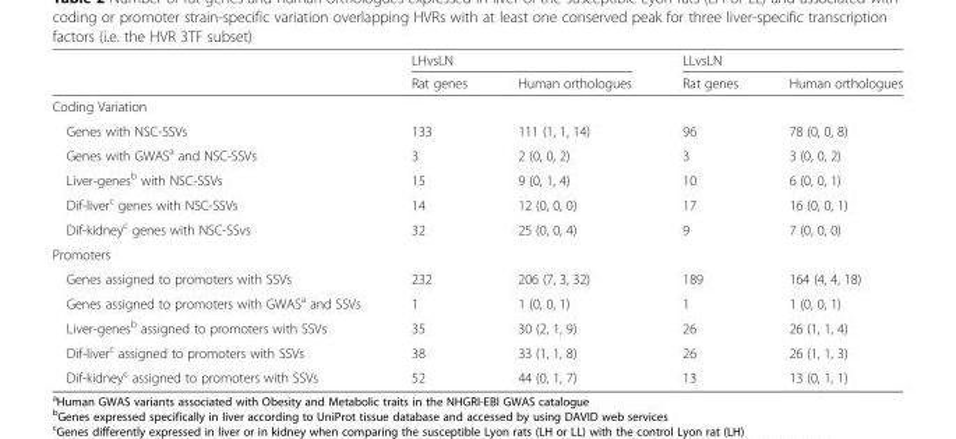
<table><thead><tr><td rowspan="2"></td><td colspan="2">LHvsLN</td><td colspan="2">LLvsLN</td></tr><tr><td>Rat genes</td><td>Human orthologues</td><td>Rat genes</td><td>Human orthologues</td></tr></thead><tbody><tr><td colspan="5">Coding Variation</td></tr><tr><td>Genes with NSC-SSVs</td><td>133</td><td>111 (1, 1, 14)</td><td>96</td><td>78 (0, 0, 8)</td></tr><tr><td>Genes with GWAS<sup>a</sup> and NSC-SSVs</td><td>3</td><td>2 (0, 0, 2)</td><td>3</td><td>3 (0, 0, 2)</td></tr><tr><td>Liver-genes<sup>b</sup> with NSC-SSVs</td><td>15</td><td>9 (0, 1, 4)</td><td>10</td><td>6 (0, 0, 1)</td></tr><tr><td>Dif-liver<sup>c</sup> genes with NSC-SSVs</td><td>14</td><td>12 (0, 0, 0)</td><td>17</td><td>16 (0, 0, 1)</td></tr><tr><td>Dif-kidney<sup>c</sup> genes with NSC-SSvs</td><td>32</td><td>25 (0, 0, 4)</td><td>9</td><td>7 (0, 0, 0)</td></tr><tr><td colspan="5">Promoters</td></tr><tr><td>Genes assigned to promoters with SSVs</td><td>232</td><td>206 (7, 3, 32)</td><td>189</td><td>164 (4, 4, 18)</td></tr><tr><td>Genes assigned to promoters with GWAS<sup>a</sup> and SSVs</td><td>1</td><td>1 (0, 0, 1)</td><td>1</td><td>1 (0, 0, 1)</td></tr><tr><td>Liver-genes<sup>b</sup> assigned to promoters with SSVs</td><td>35</td><td>30 (2, 1, 9)</td><td>26</td><td>26 (1, 1, 4)</td></tr><tr><td>Dif-liver<sup>c</sup> assigned to promoters with SSVs</td><td>38</td><td>33 (1, 1, 8)</td><td>26</td><td>26 (1, 1, 3)</td></tr><tr><td>Dif-kidney<sup>c</sup> assigned to promoters with SSVs</td><td>52</td><td>44 (0, 1, 7)</td><td>13</td><td>13 (0, 1, 1)</td></tr></tbody></table>